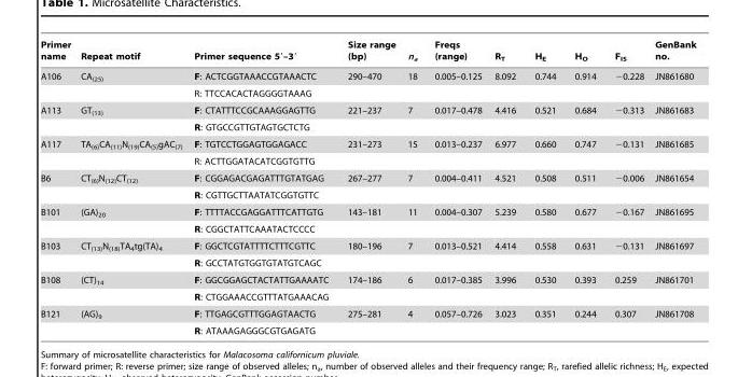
<table><thead><tr><td>Primer name</td><td>Repeat motif</td><td>Primer sequence 5′–3′</td><td>Size range (bp)</td><td>n<sub>a</sub></td><td>Freqs (range)</td><td>R<sub>T</sub></td><td>H<sub>E</sub></td><td>H<sub>O</sub></td><td>F<sub>IS</sub></td><td>GenBank no.</td></tr></thead><tbody><tr><td rowspan="2">A106</td><td>CA<sub>(25)</sub></td><td>F: ACTCGGTAAACCGTAAACTC</td><td>290–470</td><td>18</td><td>0.005–0.125</td><td>8.092</td><td>0.744</td><td>0.914</td><td>−0.228</td><td>JN861680</td></tr><tr><td></td><td>R: TTCCACACTAGGGGTAAAG</td><td></td><td></td><td></td><td></td><td></td><td></td><td></td><td></td></tr><tr><td rowspan="2">A113</td><td>GT<sub>(13)</sub></td><td>F: CTATTTCCGCAAAGGAGTTG</td><td>221–237</td><td>7</td><td>0.017–0.478</td><td>4.416</td><td>0.521</td><td>0.684</td><td>−0.313</td><td>JN861683</td></tr><tr><td></td><td>R: GTGCCGTTGTAGTGCTCTG</td><td></td><td></td><td></td><td></td><td></td><td></td><td></td><td></td></tr><tr><td rowspan="2">A117</td><td>TA<sub>(6)</sub>CA<sub>(11)</sub>N<sub>(19)</sub>CA<sub>(5)</sub>gAC<sub>(7)</sub></td><td>F: TGTCCTGGAGTGGAGACC</td><td>231–273</td><td>15</td><td>0.013–0.237</td><td>6.977</td><td>0.660</td><td>0.747</td><td>−0.131</td><td>JN861685</td></tr><tr><td></td><td>R: ACTTGGATACATCGGTGTTG</td><td></td><td></td><td></td><td></td><td></td><td></td><td></td><td></td></tr><tr><td rowspan="2">B6</td><td>CT<sub>(6)</sub>N<sub>(12)</sub>CT<sub>(12)</sub></td><td>F: CGGAGACGAGATTTGTATGAG</td><td>267–277</td><td>7</td><td>0.004–0.411</td><td>4.521</td><td>0.508</td><td>0.511</td><td>−0.006</td><td>JN861654</td></tr><tr><td></td><td>R: CGTTGCTTAATATCGGTGTTC</td><td></td><td></td><td></td><td></td><td></td><td></td><td></td><td></td></tr><tr><td rowspan="2">B101</td><td>(GA)<sub>20</sub></td><td>F: TTTTACCGAGGATTTCATTGTG</td><td>143–181</td><td>11</td><td>0.004–0.307</td><td>5.239</td><td>0.580</td><td>0.677</td><td>−0.167</td><td>JN861695</td></tr><tr><td></td><td>R: CGGCTATTCAAATACTCCCC</td><td></td><td></td><td></td><td></td><td></td><td></td><td></td><td></td></tr><tr><td rowspan="2">B103</td><td>CT<sub>(13)</sub>N<sub>(18)</sub>TA<sub>4</sub>tg(TA)<sub>4</sub></td><td>F: GGCTCGTATTTTCTTTCGTTC</td><td>180–196</td><td>7</td><td>0.013–0.521</td><td>4.414</td><td>0.558</td><td>0.631</td><td>−0.131</td><td>JN861697</td></tr><tr><td></td><td>R: GCCTATGTGGTGTATGTCAGC</td><td></td><td></td><td></td><td></td><td></td><td></td><td></td><td></td></tr><tr><td rowspan="2">B108</td><td>(CT)<sub>14</sub></td><td>F: GGCGGAGCTACTATTGAAAATC</td><td>174–186</td><td>6</td><td>0.017–0.385</td><td>3.996</td><td>0.530</td><td>0.393</td><td>0.259</td><td>JN861701</td></tr><tr><td></td><td>R: CTGGAAACCGTTTATGAAACAG</td><td></td><td></td><td></td><td></td><td></td><td></td><td></td><td></td></tr><tr><td rowspan="2">B121</td><td>(AG)<sub>9</sub></td><td>F: TTGAGCGTTTGGAGTAACTG</td><td>275–281</td><td>4</td><td>0.057–0.726</td><td>3.023</td><td>0.351</td><td>0.244</td><td>0.307</td><td>JN861708</td></tr><tr><td></td><td>R: ATAAAGAGGGCGTGAGATG</td><td></td><td></td><td></td><td></td><td></td><td></td><td></td><td></td></tr></tbody></table>